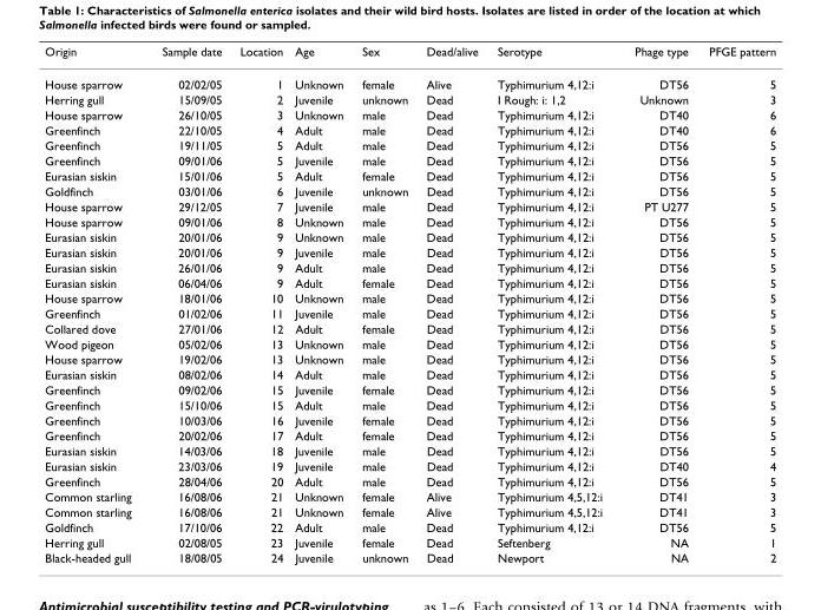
<table><thead><tr><td>Origin</td><td>Sample date</td><td>Location</td><td>Age</td><td>Sex</td><td>Dead/alive</td><td>Serotype</td><td>Phage type</td><td>PFGE pattern</td></tr></thead><tbody><tr><td>House sparrow</td><td>02/02/05</td><td>1</td><td>Unknown</td><td>female</td><td>Alive</td><td>Typhimurium 4,12:i</td><td>DT56</td><td>5</td></tr><tr><td>Herring gull</td><td>15/09/05</td><td>2</td><td>Juvenile</td><td>unknown</td><td>Dead</td><td>I Rough: i: 1,2</td><td>Unknown</td><td>3</td></tr><tr><td>House sparrow</td><td>26/10/05</td><td>3</td><td>Unknown</td><td>male</td><td>Dead</td><td>Typhimurium 4,12:i</td><td>DT40</td><td>6</td></tr><tr><td>Greenfinch</td><td>22/10/05</td><td>4</td><td>Adult</td><td>male</td><td>Dead</td><td>Typhimurium 4,12:i</td><td>DT40</td><td>6</td></tr><tr><td>Greenfinch</td><td>19/11/05</td><td>5</td><td>Adult</td><td>male</td><td>Dead</td><td>Typhimurium 4,12:i</td><td>DT56</td><td>5</td></tr><tr><td>Greenfinch</td><td>09/01/06</td><td>5</td><td>Juvenile</td><td>male</td><td>Dead</td><td>Typhimurium 4,12:i</td><td>DT56</td><td>5</td></tr><tr><td>Eurasian siskin</td><td>15/01/06</td><td>5</td><td>Adult</td><td>female</td><td>Dead</td><td>Typhimurium 4,12:i</td><td>DT56</td><td>5</td></tr><tr><td>Goldfinch</td><td>03/01/06</td><td>6</td><td>Juvenile</td><td>unknown</td><td>Dead</td><td>Typhimurium 4,12:i</td><td>DT56</td><td>5</td></tr><tr><td>House sparrow</td><td>29/12/05</td><td>7</td><td>Juvenile</td><td>male</td><td>Dead</td><td>Typhimurium 4,12:i</td><td>PT U277</td><td>5</td></tr><tr><td>House sparrow</td><td>09/01/06</td><td>8</td><td>Unknown</td><td>male</td><td>Dead</td><td>Typhimurium 4,12:i</td><td>DT56</td><td>5</td></tr><tr><td>Eurasian siskin</td><td>20/01/06</td><td>9</td><td>Unknown</td><td>male</td><td>Dead</td><td>Typhimurium 4,12:i</td><td>DT56</td><td>5</td></tr><tr><td>Eurasian siskin</td><td>20/01/06</td><td>9</td><td>Juvenile</td><td>male</td><td>Dead</td><td>Typhimurium 4,12:i</td><td>DT56</td><td>5</td></tr><tr><td>Eurasian siskin</td><td>26/01/06</td><td>9</td><td>Adult</td><td>male</td><td>Dead</td><td>Typhimurium 4,12:i</td><td>DT56</td><td>5</td></tr><tr><td>Eurasian siskin</td><td>06/04/06</td><td>9</td><td>Adult</td><td>female</td><td>Dead</td><td>Typhimurium 4,12:i</td><td>DT56</td><td>5</td></tr><tr><td>House sparrow</td><td>18/01/06</td><td>10</td><td>Unknown</td><td>male</td><td>Dead</td><td>Typhimurium 4,12:i</td><td>DT56</td><td>5</td></tr><tr><td>Greenfinch</td><td>01/02/06</td><td>11</td><td>Juvenile</td><td>male</td><td>Dead</td><td>Typhimurium 4,12:i</td><td>DT56</td><td>5</td></tr><tr><td>Collared dove</td><td>27/01/06</td><td>12</td><td>Adult</td><td>female</td><td>Dead</td><td>Typhimurium 4,12:i</td><td>DT56</td><td>5</td></tr><tr><td>Wood pigeon</td><td>05/02/06</td><td>13</td><td>Unknown</td><td>male</td><td>Dead</td><td>Typhimurium 4,12:i</td><td>DT56</td><td>5</td></tr><tr><td>House sparrow</td><td>19/02/06</td><td>13</td><td>Unknown</td><td>male</td><td>Dead</td><td>Typhimurium 4,12:i</td><td>DT56</td><td>5</td></tr><tr><td>Eurasian siskin</td><td>08/02/06</td><td>14</td><td>Adult</td><td>male</td><td>Dead</td><td>Typhimurium 4,12:i</td><td>DT56</td><td>5</td></tr><tr><td>Greenfinch</td><td>09/02/06</td><td>15</td><td>Juvenile</td><td>female</td><td>Dead</td><td>Typhimurium 4,12:i</td><td>DT56</td><td>5</td></tr><tr><td>Greenfinch</td><td>15/10/06</td><td>15</td><td>Adult</td><td>male</td><td>Dead</td><td>Typhimurium 4,12:i</td><td>DT56</td><td>5</td></tr><tr><td>Greenfinch</td><td>10/03/06</td><td>16</td><td>Juvenile</td><td>female</td><td>Dead</td><td>Typhimurium 4,12:i</td><td>DT56</td><td>5</td></tr><tr><td>Greenfinch</td><td>20/02/06</td><td>17</td><td>Adult</td><td>female</td><td>Dead</td><td>Typhimurium 4,12:i</td><td>DT56</td><td>5</td></tr><tr><td>Eurasian siskin</td><td>14/03/06</td><td>18</td><td>Juvenile</td><td>male</td><td>Dead</td><td>Typhimurium 4,12:i</td><td>DT56</td><td>5</td></tr><tr><td>Eurasian siskin</td><td>23/03/06</td><td>19</td><td>Juvenile</td><td>male</td><td>Dead</td><td>Typhimurium 4,12:i</td><td>DT40</td><td>4</td></tr><tr><td>Greenfinch</td><td>28/04/06</td><td>20</td><td>Adult</td><td>male</td><td>Dead</td><td>Typhimurium 4,12:i</td><td>DT56</td><td>5</td></tr><tr><td>Common starling</td><td>16/08/06</td><td>21</td><td>Unknown</td><td>female</td><td>Alive</td><td>Typhimurium 4,5,12:i</td><td>DT41</td><td>3</td></tr><tr><td>Common starling</td><td>16/08/06</td><td>21</td><td>Unknown</td><td>female</td><td>Alive</td><td>Typhimurium 4,5,12:i</td><td>DT41</td><td>3</td></tr><tr><td>Goldfinch</td><td>17/10/06</td><td>22</td><td>Adult</td><td>male</td><td>Dead</td><td>Typhimurium 4,12:i</td><td>DT56</td><td>5</td></tr><tr><td>Herring gull</td><td>02/08/05</td><td>23</td><td>Juvenile</td><td>female</td><td>Dead</td><td>Seftenberg</td><td>NA</td><td>1</td></tr><tr><td>Black-headed gull</td><td>18/08/05</td><td>24</td><td>Juvenile</td><td>unknown</td><td>Dead</td><td>Newport</td><td>NA</td><td>2</td></tr></tbody></table>